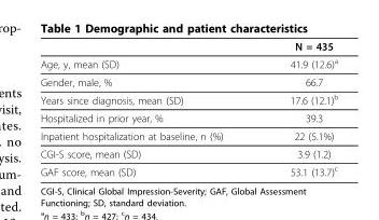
<table><thead><tr><td></td><td>N = 435</td></tr></thead><tbody><tr><td>Age, y, mean (SD)</td><td>41.9 (12.6)<sup>a</sup></td></tr><tr><td>Gender, male, %</td><td>66.7</td></tr><tr><td>Years since diagnosis, mean (SD)</td><td>17.6 (12.1)<sup>b</sup></td></tr><tr><td>Hospitalized in prior year, %</td><td>39.3</td></tr><tr><td>Inpatient hospitalization at baseline, n (%)</td><td>22 (5.1%)</td></tr><tr><td>CGI-S score, mean (SD)</td><td>3.9 (1.2)</td></tr><tr><td>GAF score, mean (SD)</td><td>53.1 (13.7)<sup>c</sup></td></tr></tbody></table>